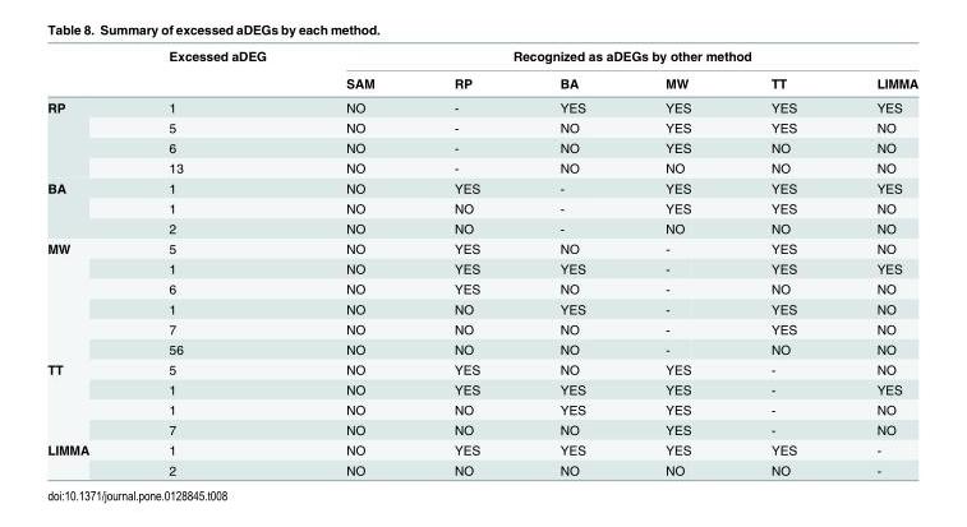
<table><thead><tr><td rowspan="2"></td><td rowspan="2">Excessed aDEG</td><td colspan="6">Recognized as aDEGs by other method</td></tr><tr><td>SAM</td><td>RP</td><td>BA</td><td>MW</td><td>TT</td><td>LIMMA</td></tr></thead><tbody><tr><td rowspan="4">RP</td><td>1</td><td>NO</td><td>-</td><td>YES</td><td>YES</td><td>YES</td><td>YES</td></tr><tr><td>5</td><td>NO</td><td>-</td><td>NO</td><td>YES</td><td>YES</td><td>NO</td></tr><tr><td>6</td><td>NO</td><td>-</td><td>NO</td><td>YES</td><td>NO</td><td>NO</td></tr><tr><td>13</td><td>NO</td><td>-</td><td>NO</td><td>NO</td><td>NO</td><td>NO</td></tr><tr><td rowspan="3">BA</td><td>1</td><td>NO</td><td>YES</td><td>-</td><td>YES</td><td>YES</td><td>YES</td></tr><tr><td>1</td><td>NO</td><td>NO</td><td>-</td><td>YES</td><td>YES</td><td>NO</td></tr><tr><td>2</td><td>NO</td><td>NO</td><td>-</td><td>NO</td><td>NO</td><td>NO</td></tr><tr><td rowspan="6">MW</td><td>5</td><td>NO</td><td>YES</td><td>NO</td><td>-</td><td>YES</td><td>NO</td></tr><tr><td>1</td><td>NO</td><td>YES</td><td>YES</td><td>-</td><td>YES</td><td>YES</td></tr><tr><td>6</td><td>NO</td><td>YES</td><td>NO</td><td>-</td><td>NO</td><td>NO</td></tr><tr><td>1</td><td>NO</td><td>NO</td><td>YES</td><td>-</td><td>YES</td><td>NO</td></tr><tr><td>7</td><td>NO</td><td>NO</td><td>NO</td><td>-</td><td>YES</td><td>NO</td></tr><tr><td>56</td><td>NO</td><td>NO</td><td>NO</td><td>-</td><td>NO</td><td>NO</td></tr><tr><td rowspan="4">TT</td><td>5</td><td>NO</td><td>YES</td><td>NO</td><td>YES</td><td>-</td><td>NO</td></tr><tr><td>1</td><td>NO</td><td>YES</td><td>YES</td><td>YES</td><td>-</td><td>YES</td></tr><tr><td>1</td><td>NO</td><td>NO</td><td>YES</td><td>YES</td><td>-</td><td>NO</td></tr><tr><td>7</td><td>NO</td><td>NO</td><td>NO</td><td>YES</td><td>-</td><td>NO</td></tr><tr><td rowspan="2">LIMMA</td><td>1</td><td>NO</td><td>YES</td><td>YES</td><td>YES</td><td>YES</td><td>-</td></tr><tr><td>2</td><td>NO</td><td>NO</td><td>NO</td><td>NO</td><td>NO</td><td>-</td></tr></tbody></table>